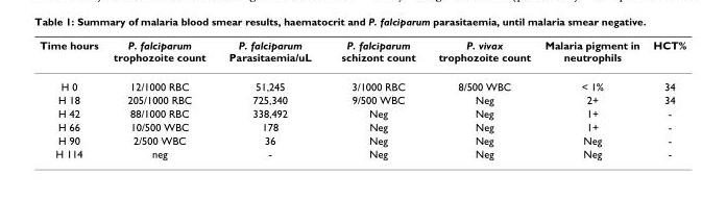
<table><thead><tr><td>Time hours</td><td>P. falciparum trophozoite count</td><td>P. falciparum Parasitaemia/uL</td><td>P. falciparum schizont count</td><td>P. vivax trophozoite count</td><td>Malaria pigment in neutrophils</td><td>HCT%</td></tr></thead><tbody><tr><td>H 0</td><td>12/1000 RBC</td><td>51,245</td><td>3/1000 RBC</td><td>8/500 WBC</td><td>&lt; 1%</td><td>34</td></tr><tr><td>H 18</td><td>205/1000 RBC</td><td>725,340</td><td>9/500 WBC</td><td>Neg</td><td>2+</td><td>34</td></tr><tr><td>H 42</td><td>88/1000 RBC</td><td>338,492</td><td>Neg</td><td>Neg</td><td>1+</td><td>-</td></tr><tr><td>H 66</td><td>10/500 WBC</td><td>178</td><td>Neg</td><td>Neg</td><td>1+</td><td>-</td></tr><tr><td>H 90</td><td>2/500 WBC</td><td>36</td><td>Neg</td><td>Neg</td><td>Neg</td><td>-</td></tr><tr><td>H 114</td><td>neg</td><td>-</td><td>Neg</td><td>Neg</td><td>Neg</td><td>-</td></tr></tbody></table>